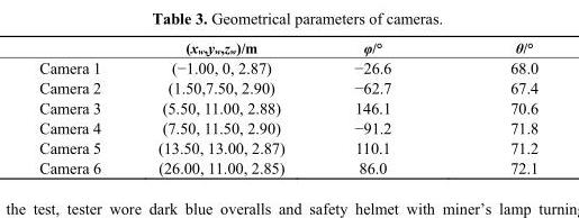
<table><thead><tr><td></td><td>(x<sub>w</sub>,y<sub>w</sub>,z<sub>w</sub>)/m</td><td>φ/°</td><td>θ/°</td></tr></thead><tbody><tr><td>Camera 1</td><td>(−1.00, 0, 2.87)</td><td>−26.6</td><td>68.0</td></tr><tr><td>Camera 2</td><td>(1.50,7.50, 2.90)</td><td>−62.7</td><td>67.4</td></tr><tr><td>Camera 3</td><td>(5.50, 11.00, 2.88)</td><td>146.1</td><td>70.6</td></tr><tr><td>Camera 4</td><td>(7.50, 11.50, 2.90)</td><td>−91.2</td><td>71.8</td></tr><tr><td>Camera 5</td><td>(13.50, 13.00, 2.87)</td><td>110.1</td><td>71.2</td></tr><tr><td>Camera 6</td><td>(26.00, 11.00, 2.85)</td><td>86.0</td><td>72.1</td></tr></tbody></table>